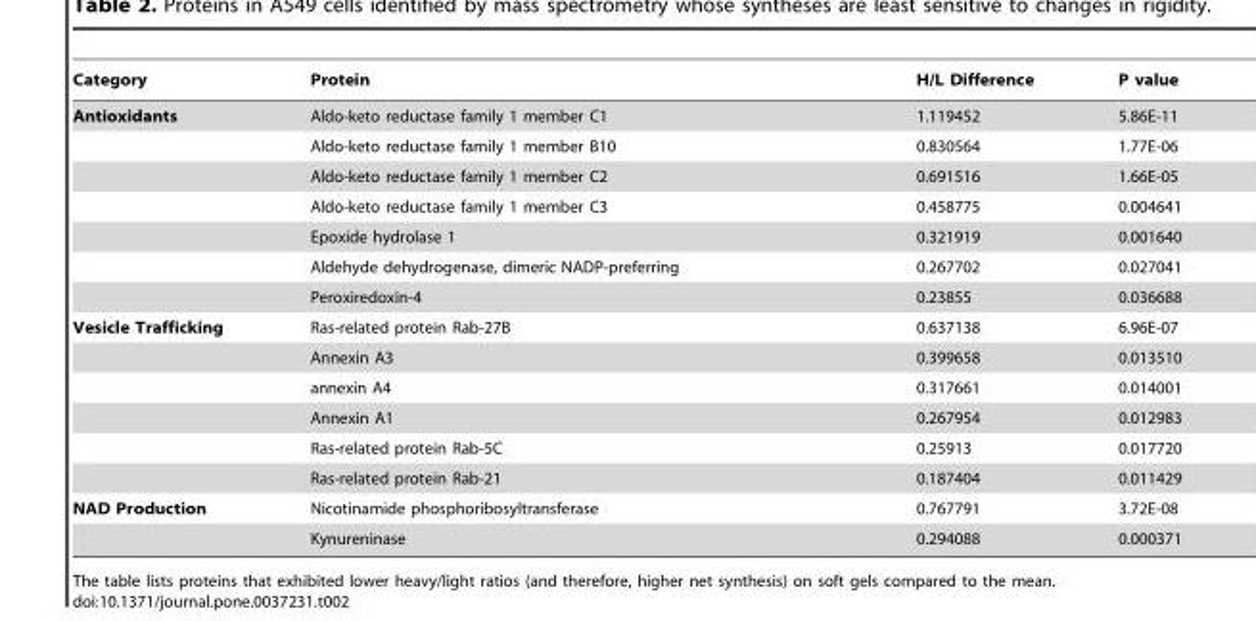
<table><thead><tr><td>Category</td><td>Protein</td><td>H/L Difference</td><td>P value</td></tr></thead><tbody><tr><td rowspan="7">Antioxidants</td><td>Aldo-keto reductase family 1 member C1</td><td>1.119452</td><td>5.86E-11</td></tr><tr><td>Aldo-keto reductase family 1 member B10</td><td>0.830564</td><td>1.77E-06</td></tr><tr><td>Aldo-keto reductase family 1 member C2</td><td>0.691516</td><td>1.66E-05</td></tr><tr><td>Aldo-keto reductase family 1 member C3</td><td>0.458775</td><td>0.004641</td></tr><tr><td>Epoxide hydrolase 1</td><td>0.321919</td><td>0.001640</td></tr><tr><td>Aldehyde dehydrogenase, dimeric NADP-preferring</td><td>0.267702</td><td>0.027041</td></tr><tr><td>Peroxiredoxin-4</td><td>0.23855</td><td>0.036688</td></tr><tr><td rowspan="6">Vesicle Trafficking</td><td>Ras-related protein Rab-27B</td><td>0.637138</td><td>6.96E-07</td></tr><tr><td>Annexin A3</td><td>0.399658</td><td>0.013510</td></tr><tr><td>annexin A4</td><td>0.317661</td><td>0.014001</td></tr><tr><td>Annexin A1</td><td>0.267954</td><td>0.012983</td></tr><tr><td>Ras-related protein Rab-5C</td><td>0.25913</td><td>0.017720</td></tr><tr><td>Ras-related protein Rab-21</td><td>0.187404</td><td>0.011429</td></tr><tr><td rowspan="2">NAD Production</td><td>Nicotinamide phosphoribosyltransferase</td><td>0.767791</td><td>3.72E-08</td></tr><tr><td>Kynureninase</td><td>0.294088</td><td>0.000371</td></tr></tbody></table>